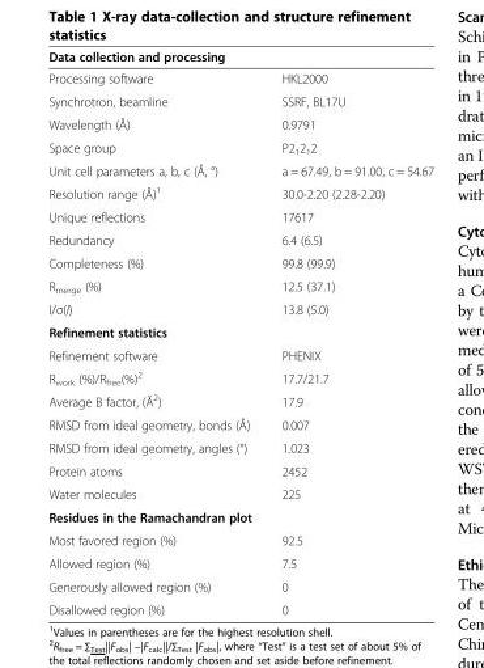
<table><thead><tr><td colspan="2">Data collection and processing</td></tr><tr><td>Processing software</td><td>HKL2000</td></tr></thead><tbody><tr><td>Synchrotron, beamline</td><td>SSRF, BL17U</td></tr><tr><td>Wavelength (Å)</td><td>0.9791</td></tr><tr><td>Space group</td><td>P2<sub>1</sub>2<sub>1</sub>2</td></tr><tr><td>Unit cell parameters a, b, c (Å, °)</td><td>a = 67.49, b = 91.00, c = 54.67</td></tr><tr><td>Resolution range (Å)<sup>1</sup></td><td>30.0-2.20 (2.28-2.20)</td></tr><tr><td>Unique reflections</td><td>17617</td></tr><tr><td>Redundancy</td><td>6.4 (6.5)</td></tr><tr><td>Completeness (%)</td><td>99.8 (99.9)</td></tr><tr><td>R<sub>merge</sub> (%)</td><td>12.5 (37.1)</td></tr><tr><td>I/σ(I)</td><td>13.8 (5.0)</td></tr><tr><td colspan="2">Refinement statistics</td></tr><tr><td>Refinement software</td><td>PHENIX</td></tr><tr><td>R<sub>work</sub> (%)/R<sub>free</sub>(%)<sup>2</sup></td><td>17.7/21.7</td></tr><tr><td>Average B factor, (Å<sup>2</sup>)</td><td>17.9</td></tr><tr><td>RMSD from ideal geometry, bonds (Å)</td><td>0.007</td></tr><tr><td>RMSD from ideal geometry, angles (°)</td><td>1.023</td></tr><tr><td>Protein atoms</td><td>2452</td></tr><tr><td>Water molecules</td><td>225</td></tr><tr><td colspan="2">Residues in the Ramachandran plot</td></tr><tr><td>Most favored region (%)</td><td>92.5</td></tr><tr><td>Allowed region (%)</td><td>7.5</td></tr><tr><td>Generously allowed region (%)</td><td>0</td></tr><tr><td>Disallowed region (%)</td><td>0</td></tr></tbody></table>